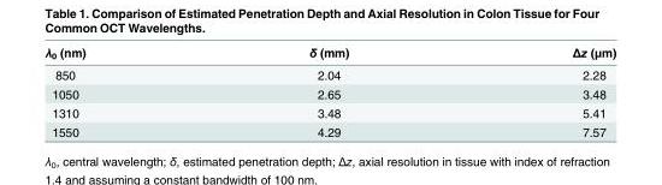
<table><thead><tr><td>λ<sub>0</sub> (nm)</td><td>δ (mm)</td><td>Δz (μm)</td></tr></thead><tbody><tr><td>850</td><td>2.04</td><td>2.28</td></tr><tr><td>1050</td><td>2.65</td><td>3.48</td></tr><tr><td>1310</td><td>3.48</td><td>5.41</td></tr><tr><td>1550</td><td>4.29</td><td>7.57</td></tr></tbody></table>